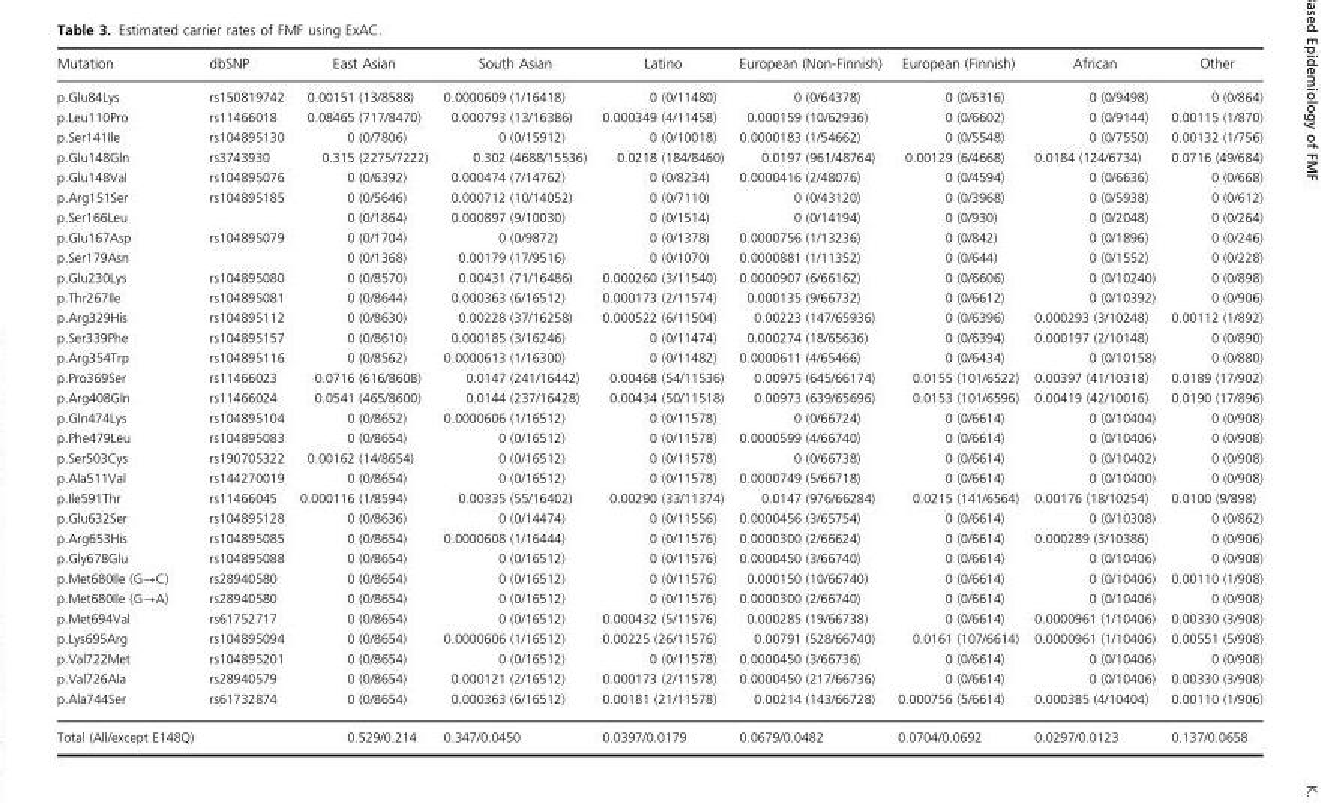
<table><thead><tr><td>Mutation</td><td>dbSNP</td><td>East Asian</td><td>South Asian</td><td>Latino</td><td>European (Non-Finnish)</td><td>European (Finnish)</td><td>African</td><td>Other</td></tr></thead><tbody><tr><td>p.Glu84Lys</td><td>rs150819742</td><td>0.00151 (13/8588)</td><td>0.0000609 (1/16418)</td><td>0 (0/11480)</td><td>0 (0/64378)</td><td>0 (0/6316)</td><td>0 (0/9498)</td><td>0 (0/864)</td></tr><tr><td>p.Leu110Pro</td><td>rs11466018</td><td>0.08465 (717/8470)</td><td>0.000793 (13/16386)</td><td>0.000349 (4/11458)</td><td>0.000159 (10/62936)</td><td>0 (0/6602)</td><td>0 (0/9144)</td><td>0.00115 (1/870)</td></tr><tr><td>p.Ser141Ile</td><td>rs104895130</td><td>0 (0/7806)</td><td>0 (0/15912)</td><td>0 (0/10018)</td><td>0.0000183 (1/54662)</td><td>0 (0/5548)</td><td>0 (0/7550)</td><td>0.00132 (1/756)</td></tr><tr><td>p.Glu148Gln</td><td>rs3743930</td><td>0.315 (2275/7222)</td><td>0.302 (4688/15536)</td><td>0.0218 (184/8460)</td><td>0.0197 (961/48764)</td><td>0.00129 (6/4668)</td><td>0.0184 (124/6734)</td><td>0.0716 (49/684)</td></tr><tr><td>p.Glu148Val</td><td>rs104895076</td><td>0 (0/6392)</td><td>0.000474 (7/14762)</td><td>0 (0/8234)</td><td>0.0000416 (2/48076)</td><td>0 (0/4594)</td><td>0 (0/6636)</td><td>0 (0/668)</td></tr><tr><td>p.Arg151Ser</td><td>rs104895185</td><td>0 (0/5646)</td><td>0.000712 (10/14052)</td><td>0 (0/7110)</td><td>0 (0/43120)</td><td>0 (0/3968)</td><td>0 (0/5938)</td><td>0 (0/612)</td></tr><tr><td>p.Ser166Leu</td><td></td><td>0 (0/1864)</td><td>0.000897 (9/10030)</td><td>0 (0/1514)</td><td>0 (0/14194)</td><td>0 (0/930)</td><td>0 (0/2048)</td><td>0 (0/264)</td></tr><tr><td>p.Glu167Asp</td><td>rs104895079</td><td>0 (0/1704)</td><td>0 (0/9872)</td><td>0 (0/1378)</td><td>0.0000756 (1/13236)</td><td>0 (0/842)</td><td>0 (0/1896)</td><td>0 (0/246)</td></tr><tr><td>p.Ser179Asn</td><td></td><td>0 (0/1368)</td><td>0.00179 (17/9516)</td><td>0 (0/1070)</td><td>0.0000881 (1/11352)</td><td>0 (0/644)</td><td>0 (0/1552)</td><td>0 (0/228)</td></tr><tr><td>p.Glu230Lys</td><td>rs104895080</td><td>0 (0/8570)</td><td>0.00431 (71/16486)</td><td>0.000260 (3/11540)</td><td>0.0000907 (6/66162)</td><td>0 (0/6606)</td><td>0 (0/10240)</td><td>0 (0/898)</td></tr><tr><td>p.Thr267Ile</td><td>rs104895081</td><td>0 (0/8644)</td><td>0.000363 (6/16512)</td><td>0.000173 (2/11574)</td><td>0.000135 (9/66732)</td><td>0 (0/6612)</td><td>0 (0/10392)</td><td>0 (0/906)</td></tr><tr><td>p.Arg329His</td><td>rs104895112</td><td>0 (0/8630)</td><td>0.00228 (37/16258)</td><td>0.000522 (6/11504)</td><td>0.00223 (147/65936)</td><td>0 (0/6396)</td><td>0.000293 (3/10248)</td><td>0.00112 (1/892)</td></tr><tr><td>p.Ser339Phe</td><td>rs104895157</td><td>0 (0/8610)</td><td>0.000185 (3/16246)</td><td>0 (0/11474)</td><td>0.000274 (18/65636)</td><td>0 (0/6394)</td><td>0.000197 (2/10148)</td><td>0 (0/890)</td></tr><tr><td>p.Arg354Trp</td><td>rs104895116</td><td>0 (0/8562)</td><td>0.0000613 (1/16300)</td><td>0 (0/11482)</td><td>0.0000611 (4/65466)</td><td>0 (0/6434)</td><td>0 (0/10158)</td><td>0 (0/880)</td></tr><tr><td>p.Pro369Ser</td><td>rs11466023</td><td>0.0716 (616/8608)</td><td>0.0147 (241/16442)</td><td>0.00468 (54/11536)</td><td>0.00975 (645/66174)</td><td>0.0155 (101/6522)</td><td>0.00397 (41/10318)</td><td>0.0189 (17/902)</td></tr><tr><td>p.Arg408Gln</td><td>rs11466024</td><td>0.0541 (465/8600)</td><td>0.0144 (237/16428)</td><td>0.00434 (50/11518)</td><td>0.00973 (639/65696)</td><td>0.0153 (101/6596)</td><td>0.00419 (42/10016)</td><td>0.0190 (17/896)</td></tr><tr><td>p.Gln474Lys</td><td>rs104895104</td><td>0 (0/8652)</td><td>0.0000606 (1/16512)</td><td>0 (0/11578)</td><td>0 (0/66724)</td><td>0 (0/6614)</td><td>0 (0/10404)</td><td>0 (0/908)</td></tr><tr><td>p.Phe479Leu</td><td>rs104895083</td><td>0 (0/8654)</td><td>0 (0/16512)</td><td>0 (0/11578)</td><td>0.0000599 (4/66740)</td><td>0 (0/6614)</td><td>0 (0/10406)</td><td>0 (0/908)</td></tr><tr><td>p.Ser503Cys</td><td>rs190705322</td><td>0.00162 (14/8654)</td><td>0 (0/16512)</td><td>0 (0/11578)</td><td>0 (0/66738)</td><td>0 (0/6614)</td><td>0 (0/10402)</td><td>0 (0/908)</td></tr><tr><td>p.Ala511Val</td><td>rs144270019</td><td>0 (0/8654)</td><td>0 (0/16512)</td><td>0 (0/11578)</td><td>0.0000749 (5/66718)</td><td>0 (0/6614)</td><td>0 (0/10400)</td><td>0 (0/908)</td></tr><tr><td>p.Ile591Thr</td><td>rs11466045</td><td>0.000116 (1/8594)</td><td>0.00335 (55/16402)</td><td>0.00290 (33/11374)</td><td>0.0147 (976/66284)</td><td>0.0215 (141/6564)</td><td>0.00176 (18/10254)</td><td>0.0100 (9/898)</td></tr><tr><td>p.Glu632Ser</td><td>rs104895128</td><td>0 (0/8636)</td><td>0 (0/14474)</td><td>0 (0/11556)</td><td>0.0000456 (3/65754)</td><td>0 (0/6614)</td><td>0 (0/10308)</td><td>0 (0/862)</td></tr><tr><td>p.Arg653His</td><td>rs104895085</td><td>0 (0/8654)</td><td>0.0000608 (1/16444)</td><td>0 (0/11576)</td><td>0.0000300 (2/66624)</td><td>0 (0/6614)</td><td>0.000289 (3/10386)</td><td>0 (0/906)</td></tr><tr><td>p.Gly678Glu</td><td>rs104895088</td><td>0 (0/8654)</td><td>0 (0/16512)</td><td>0 (0/11576)</td><td>0.0000450 (3/66740)</td><td>0 (0/6614)</td><td>0 (0/10406)</td><td>0 (0/908)</td></tr><tr><td>p.Met680Ile (G→C)</td><td>rs28940580</td><td>0 (0/8654)</td><td>0 (0/16512)</td><td>0 (0/11576)</td><td>0.000150 (10/66740)</td><td>0 (0/6614)</td><td>0 (0/10406)</td><td>0.00110 (1/908)</td></tr><tr><td>p.Met680Ile (G→A)</td><td>rs28940580</td><td>0 (0/8654)</td><td>0 (0/16512)</td><td>0 (0/11576)</td><td>0.0000300 (2/66740)</td><td>0 (0/6614)</td><td>0 (0/10406)</td><td>0 (0/908)</td></tr><tr><td>p.Met694Val</td><td>rs61752717</td><td>0 (0/8654)</td><td>0 (0/16512)</td><td>0.000432 (5/11576)</td><td>0.000285 (19/66738)</td><td>0 (0/6614)</td><td>0.0000961 (1/10406)</td><td>0.00330 (3/908)</td></tr><tr><td>p.Lys695Arg</td><td>rs104895094</td><td>0 (0/8654)</td><td>0.0000606 (1/16512)</td><td>0.00225 (26/11576)</td><td>0.00791 (528/66740)</td><td>0.0161 (107/6614)</td><td>0.0000961 (1/10406)</td><td>0.00551 (5/908)</td></tr><tr><td>p.Val722Met</td><td>rs104895201</td><td>0 (0/8654)</td><td>0 (0/16512)</td><td>0 (0/11578)</td><td>0.0000450 (3/66736)</td><td>0 (0/6614)</td><td>0 (0/10406)</td><td>0 (0/908)</td></tr><tr><td>p.Val726Ala</td><td>rs28940579</td><td>0 (0/8654)</td><td>0.000121 (2/16512)</td><td>0.000173 (2/11578)</td><td>0.0000450 (217/66736)</td><td>0 (0/6614)</td><td>0 (0/10406)</td><td>0.00330 (3/908)</td></tr><tr><td>p.Ala744Ser</td><td>rs61732874</td><td>0 (0/8654)</td><td>0.000363 (6/16512)</td><td>0.00181 (21/11578)</td><td>0.00214 (143/66728)</td><td>0.000756 (5/6614)</td><td>0.000385 (4/10404)</td><td>0.00110 (1/906)</td></tr><tr><td>Total (All/except E148Q)</td><td></td><td>0.529/0.214</td><td>0.347/0.0450</td><td>0.0397/0.0179</td><td>0.0679/0.0482</td><td>0.0704/0.0692</td><td>0.0297/0.0123</td><td>0.137/0.0658</td></tr></tbody></table>